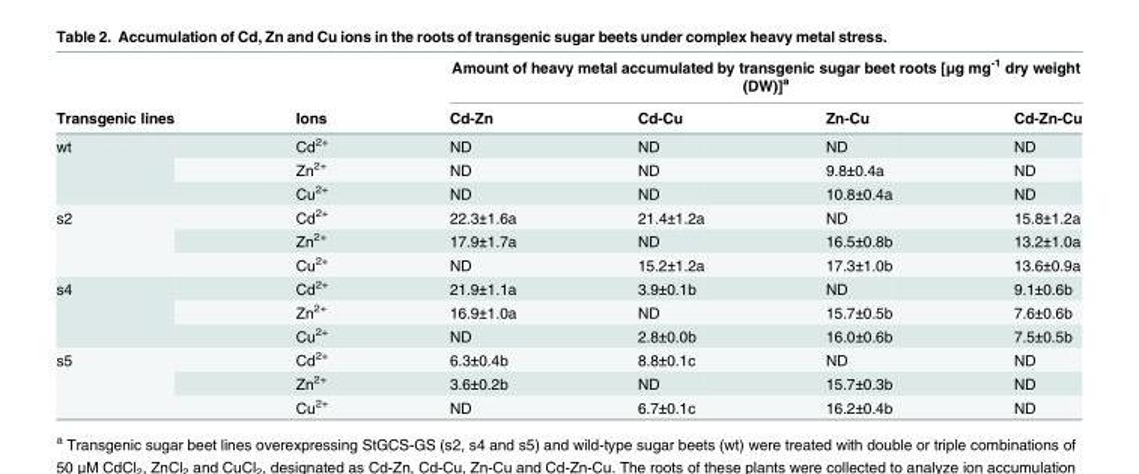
<table><thead><tr><td rowspan="2">Transgenic lines</td><td rowspan="2">Ions</td><td colspan="4">Amount of heavy metal accumulated by transgenic sugar beet roots [μg mg<sup>-1</sup> dry weight (DW)]<sup>a</sup></td></tr><tr><td>Cd-Zn</td><td>Cd-Cu</td><td>Zn-Cu</td><td>Cd-Zn-Cu</td></tr></thead><tbody><tr><td rowspan="3">wt</td><td>Cd<sup>2+</sup></td><td>ND</td><td>ND</td><td>ND</td><td>ND</td></tr><tr><td>Zn<sup>2+</sup></td><td>ND</td><td>ND</td><td>9.8±0.4a</td><td>ND</td></tr><tr><td>Cu<sup>2+</sup></td><td>ND</td><td>ND</td><td>10.8±0.4a</td><td>ND</td></tr><tr><td rowspan="3">s2</td><td>Cd<sup>2+</sup></td><td>22.3±1.6a</td><td>21.4±1.2a</td><td>ND</td><td>15.8±1.2a</td></tr><tr><td>Zn<sup>2+</sup></td><td>17.9±1.7a</td><td>ND</td><td>16.5±0.8b</td><td>13.2±1.0a</td></tr><tr><td>Cu<sup>2+</sup></td><td>ND</td><td>15.2±1.2a</td><td>17.3±1.0b</td><td>13.6±0.9a</td></tr><tr><td rowspan="3">s4</td><td>Cd<sup>2+</sup></td><td>21.9±1.1a</td><td>3.9±0.1b</td><td>ND</td><td>9.1±0.6b</td></tr><tr><td>Zn<sup>2+</sup></td><td>16.9±1.0a</td><td>ND</td><td>15.7±0.5b</td><td>7.6±0.6b</td></tr><tr><td>Cu<sup>2+</sup></td><td>ND</td><td>2.8±0.0b</td><td>16.0±0.6b</td><td>7.5±0.5b</td></tr><tr><td rowspan="3">s5</td><td>Cd<sup>2+</sup></td><td>6.3±0.4b</td><td>8.8±0.1c</td><td>ND</td><td>ND</td></tr><tr><td>Zn<sup>2+</sup></td><td>3.6±0.2b</td><td>ND</td><td>15.7±0.3b</td><td>ND</td></tr><tr><td>Cu<sup>2+</sup></td><td>ND</td><td>6.7±0.1c</td><td>16.2±0.4b</td><td>ND</td></tr></tbody></table>